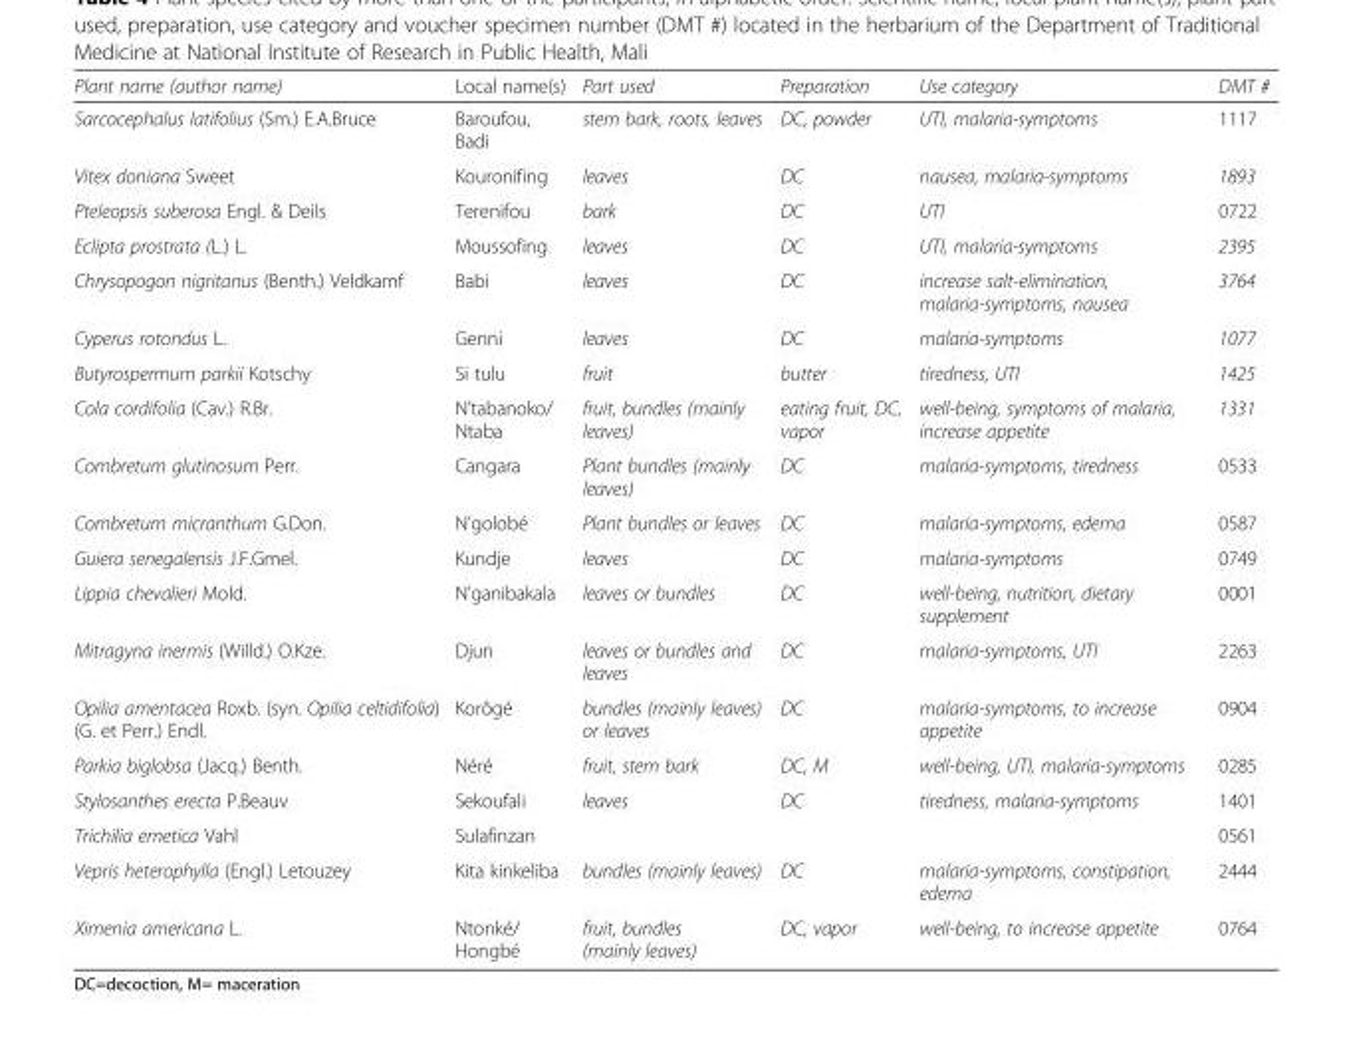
<table><thead><tr><td>Plant name (author name)</td><td>Local name(s)</td><td>Part used</td><td>Preparation</td><td>Use category</td><td>DMT #</td></tr></thead><tbody><tr><td>Sarcocephalus latifolius (Sm.) E.A.Bruce</td><td>Baroufou, Badi</td><td>stem bark, roots, leaves</td><td>DC, powder</td><td>UTI, malaria-symptoms</td><td>1117</td></tr><tr><td>Vitex doniana Sweet</td><td>Kouronifing</td><td>leaves</td><td>DC</td><td>nausea, malaria-symptoms</td><td>1893</td></tr><tr><td>Pteleopsis suberosa Engl. &amp; Deils</td><td>Terenifou</td><td>bark</td><td>DC</td><td>UTI</td><td>0722</td></tr><tr><td>Eclipta prostrata (L.) L.</td><td>Moussofing</td><td>leaves</td><td>DC</td><td>UTI, malaria-symptoms</td><td>2395</td></tr><tr><td>Chrysopogon nigritanus (Benth.) Veldkamf</td><td>Babi</td><td>leaves</td><td>DC</td><td>increase salt-elimination, malaria-symptoms, nausea</td><td>3764</td></tr><tr><td>Cyperus rotondus L.</td><td>Genni</td><td>leaves</td><td>DC</td><td>malaria-symptoms</td><td>1077</td></tr><tr><td>Butyrospermum parkii Kotschy</td><td>Si tulu</td><td>fruit</td><td>butter</td><td>tiredness, UTI</td><td>1425</td></tr><tr><td>Cola cordifolia (Cav.) R.Br.</td><td>N’tabanoko/ Ntaba</td><td>fruit, bundles (mainly leaves)</td><td>eating fruit, DC, vapor</td><td>well-being, symptoms of malaria, increase appetite</td><td>1331</td></tr><tr><td>Combretum glutinosum Perr.</td><td>Cangara</td><td>Plant bundles (mainly leaves)</td><td>DC</td><td>malaria-symptoms, tiredness</td><td>0533</td></tr><tr><td>Combretum micranthum G.Don.</td><td>N’golobé</td><td>Plant bundles or leaves</td><td>DC</td><td>malaria-symptoms, edema</td><td>0587</td></tr><tr><td>Guiera senegalensis J.F.Gmel.</td><td>Kundje</td><td>leaves</td><td>DC</td><td>malaria-symptoms</td><td>0749</td></tr><tr><td>Lippia chevalieri Mold.</td><td>N’ganibakala</td><td>leaves or bundles</td><td>DC</td><td>well-being, nutrition, dietary supplement</td><td>0001</td></tr><tr><td>Mitragyna inermis (Willd.) O.Kze.</td><td>Djun</td><td>leaves or bundles and leaves</td><td>DC</td><td>malaria-symptoms, UTI</td><td>2263</td></tr><tr><td>Opilia amentacea Roxb. (syn. Opilia celtidifolia) (G. et Perr.) Endl.</td><td>Korôgé</td><td>bundles (mainly leaves) or leaves</td><td>DC</td><td>malaria-symptoms, to increase appetite</td><td>0904</td></tr><tr><td>Parkia biglobsa (Jacq.) Benth.</td><td>Néré</td><td>fruit, stem bark</td><td>DC, M</td><td>well-being, UTI, malaria-symptoms</td><td>0285</td></tr><tr><td>Stylosanthes erecta P.Beauv</td><td>Sekoufali</td><td>leaves</td><td>DC</td><td>tiredness, malaria-symptoms</td><td>1401</td></tr><tr><td>Trichilia emetica Vahl</td><td>Sulafinzan</td><td></td><td></td><td></td><td>0561</td></tr><tr><td>Vepris heterophylla (Engl.) Letouzey</td><td>Kita kinkeliba</td><td>bundles (mainly leaves)</td><td>DC</td><td>malaria-symptoms, constipation, edema</td><td>2444</td></tr><tr><td>Ximenia americana L.</td><td>Ntonké/ Hongbé</td><td>fruit, bundles (mainly leaves)</td><td>DC, vapor</td><td>well-being, to increase appetite</td><td>0764</td></tr></tbody></table>